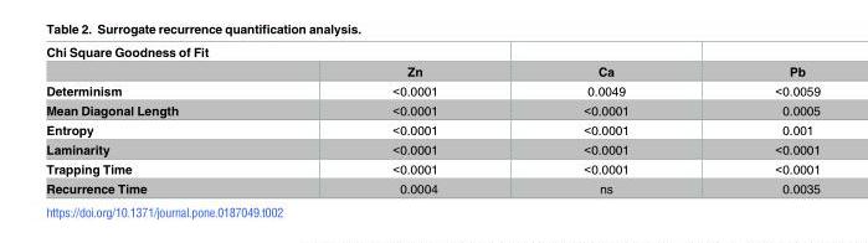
<table><thead><tr><td colspan="2">Chi Square Goodness of Fit</td><td rowspan="2">Ca</td><td rowspan="2">Pb</td></tr><tr><td></td><td>Zn</td></tr></thead><tbody><tr><td>Determinism</td><td>&lt;0.0001</td><td>0.0049</td><td>&lt;0.0059</td></tr><tr><td>Mean Diagonal Length</td><td>&lt;0.0001</td><td>&lt;0.0001</td><td>0.0005</td></tr><tr><td>Entropy</td><td>&lt;0.0001</td><td>&lt;0.0001</td><td>0.001</td></tr><tr><td>Laminarity</td><td>&lt;0.0001</td><td>&lt;0.0001</td><td>&lt;0.0001</td></tr><tr><td>Trapping Time</td><td>&lt;0.0001</td><td>&lt;0.0001</td><td>&lt;0.0001</td></tr><tr><td>Recurrence Time</td><td>0.0004</td><td>ns</td><td>0.0035</td></tr></tbody></table>